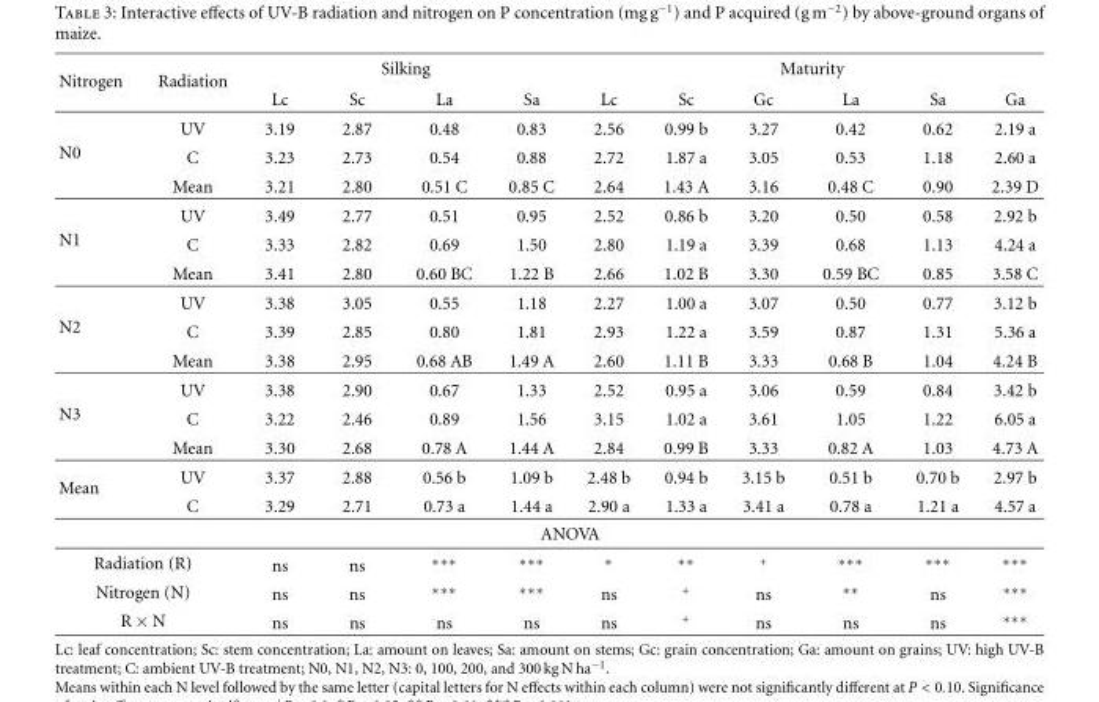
<table><thead><tr><td rowspan="2">Nitrogen</td><td rowspan="2">Radiation</td><td colspan="4">Silking</td><td colspan="6">Maturity</td></tr><tr><td>Lc</td><td>Sc</td><td>La</td><td>Sa</td><td>Lc</td><td>Sc</td><td>Gc</td><td>La</td><td>Sa</td><td>Ga</td></tr></thead><tbody><tr><td rowspan="3">N0</td><td>UV</td><td>3.19</td><td>2.87</td><td>0.48</td><td>0.83</td><td>2.56</td><td>0.99 b</td><td>3.27</td><td>0.42</td><td>0.62</td><td>2.19 a</td></tr><tr><td>C</td><td>3.23</td><td>2.73</td><td>0.54</td><td>0.88</td><td>2.72</td><td>1.87 a</td><td>3.05</td><td>0.53</td><td>1.18</td><td>2.60 a</td></tr><tr><td>Mean</td><td>3.21</td><td>2.80</td><td>0.51 C</td><td>0.85 C</td><td>2.64</td><td>1.43 A</td><td>3.16</td><td>0.48 C</td><td>0.90</td><td>2.39 D</td></tr><tr><td rowspan="3">N1</td><td>UV</td><td>3.49</td><td>2.77</td><td>0.51</td><td>0.95</td><td>2.52</td><td>0.86 b</td><td>3.20</td><td>0.50</td><td>0.58</td><td>2.92 b</td></tr><tr><td>C</td><td>3.33</td><td>2.82</td><td>0.69</td><td>1.50</td><td>2.80</td><td>1.19 a</td><td>3.39</td><td>0.68</td><td>1.13</td><td>4.24 a</td></tr><tr><td>Mean</td><td>3.41</td><td>2.80</td><td>0.60 BC</td><td>1.22 B</td><td>2.66</td><td>1.02 B</td><td>3.30</td><td>0.59 BC</td><td>0.85</td><td>3.58 C</td></tr><tr><td rowspan="3">N2</td><td>UV</td><td>3.38</td><td>3.05</td><td>0.55</td><td>1.18</td><td>2.27</td><td>1.00 a</td><td>3.07</td><td>0.50</td><td>0.77</td><td>3.12 b</td></tr><tr><td>C</td><td>3.39</td><td>2.85</td><td>0.80</td><td>1.81</td><td>2.93</td><td>1.22 a</td><td>3.59</td><td>0.87</td><td>1.31</td><td>5.36 a</td></tr><tr><td>Mean</td><td>3.38</td><td>2.95</td><td>0.68 AB</td><td>1.49 A</td><td>2.60</td><td>1.11 B</td><td>3.33</td><td>0.68 B</td><td>1.04</td><td>4.24 B</td></tr><tr><td rowspan="3">N3</td><td>UV</td><td>3.38</td><td>2.90</td><td>0.67</td><td>1.33</td><td>2.52</td><td>0.95 a</td><td>3.06</td><td>0.59</td><td>0.84</td><td>3.42 b</td></tr><tr><td>C</td><td>3.22</td><td>2.46</td><td>0.89</td><td>1.56</td><td>3.15</td><td>1.02 a</td><td>3.61</td><td>1.05</td><td>1.22</td><td>6.05 a</td></tr><tr><td>Mean</td><td>3.30</td><td>2.68</td><td>0.78 A</td><td>1.44 A</td><td>2.84</td><td>0.99 B</td><td>3.33</td><td>0.82 A</td><td>1.03</td><td>4.73 A</td></tr><tr><td rowspan="3">Mean</td><td>UV</td><td>3.37</td><td>2.88</td><td>0.56 b</td><td>1.09 b</td><td>2.48 b</td><td>0.94 b</td><td>3.15 b</td><td>0.51 b</td><td>0.70 b</td><td>2.97 b</td></tr><tr><td>C</td><td>3.29</td><td>2.71</td><td>0.73 a</td><td>1.44 a</td><td>2.90 a</td><td>1.33 a</td><td>3.41 a</td><td>0.78 a</td><td>1.21 a</td><td>4.57 a</td></tr><tr><td></td><td></td><td></td><td></td><td colspan="2">ANOVA</td><td></td><td></td><td></td><td></td><td></td></tr><tr><td colspan="2">Radiation (R)</td><td>ns</td><td>ns</td><td>∗∗∗</td><td>∗∗∗</td><td>∗</td><td>∗∗</td><td>+</td><td>∗∗∗</td><td>∗∗∗</td><td>∗∗∗</td></tr><tr><td colspan="2">Nitrogen (N)</td><td>ns</td><td>ns</td><td>∗∗∗</td><td>∗∗∗</td><td>ns</td><td>+</td><td>ns</td><td>∗∗</td><td>ns</td><td>∗∗∗</td></tr><tr><td colspan="2">R × N</td><td>ns</td><td>ns</td><td>ns</td><td>ns</td><td>ns</td><td>+</td><td>ns</td><td>ns</td><td>ns</td><td>∗∗∗</td></tr></tbody></table>